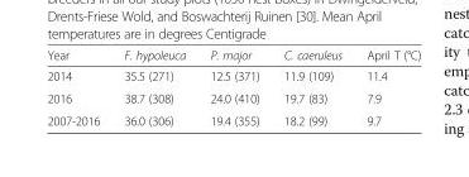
<table><thead><tr><td>Year</td><td>F. hypoleuca</td><td>P. major</td><td>C. caeruleus</td><td>April T (°C)</td></tr></thead><tbody><tr><td>2014</td><td>35.5 (271)</td><td>12.5 (371)</td><td>11.9 (109)</td><td>11.4</td></tr><tr><td>2016</td><td>38.7 (308)</td><td>24.0 (410)</td><td>19.7 (83)</td><td>7.9</td></tr><tr><td>2007-2016</td><td>36.0 (306)</td><td>19.4 (355)</td><td>18.2 (99)</td><td>9.7</td></tr></tbody></table>